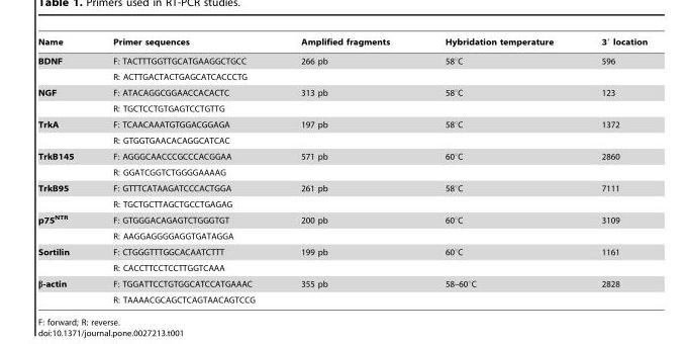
<table><thead><tr><td>Name</td><td>Primer sequences</td><td>Amplified fragments</td><td>Hybridation temperature</td><td>3′ location</td></tr></thead><tbody><tr><td rowspan="2">BDNF</td><td>F: TACTTTGGTTGCATGAAGGCTGCC</td><td>266 pb</td><td>58°C</td><td>596</td></tr><tr><td>R: ACTTGACTACTGAGCATCACCCTG</td><td></td><td></td><td></td></tr><tr><td rowspan="2">NGF</td><td>F: ATACAGGCGGAACCACACTC</td><td>313 pb</td><td>58°C</td><td>123</td></tr><tr><td>R: TGCTCCTGTGAGTCCTGTTG</td><td></td><td></td><td></td></tr><tr><td rowspan="2">TrkA</td><td>F: TCAACAAATGTGGACGGAGA</td><td>197 pb</td><td>58°C</td><td>1372</td></tr><tr><td>R: GTGGTGAACACAGGCATCAC</td><td></td><td></td><td></td></tr><tr><td rowspan="2">TrkB145</td><td>F: AGGGCAACCCGCCCACGGAA</td><td>571 pb</td><td>60°C</td><td>2860</td></tr><tr><td>R: GGATCGGTCTGGGGAAAAG</td><td></td><td></td><td></td></tr><tr><td rowspan="2">TrkB95</td><td>F: GTTTCATAAGATCCCACTGGA</td><td>261 pb</td><td>58°C</td><td>7111</td></tr><tr><td>R: TGCTGCTTAGCTGCCTGAGAG</td><td></td><td></td><td></td></tr><tr><td rowspan="2">p75<sup>NTR</sup></td><td>F: GTGGGACAGAGTCTGGGTGT</td><td>200 pb</td><td>60°C</td><td>3109</td></tr><tr><td>R: AAGGAGGGGAGGTGATAGGA</td><td></td><td></td><td></td></tr><tr><td rowspan="2">Sortilin</td><td>F: CTGGGTTTGGCACAATCTTT</td><td>199 pb</td><td>60°C</td><td>1161</td></tr><tr><td>R: CACCTTCCTCCTTGGTCAAA</td><td></td><td></td><td></td></tr><tr><td rowspan="2">β-actin</td><td>F: TGGATTCCTGTGGCATCCATGAAAC</td><td>355 pb</td><td>58–60°C</td><td>2828</td></tr><tr><td>R: TAAAACGCAGCTCAGTAACAGTCCG</td><td></td><td></td><td></td></tr></tbody></table>